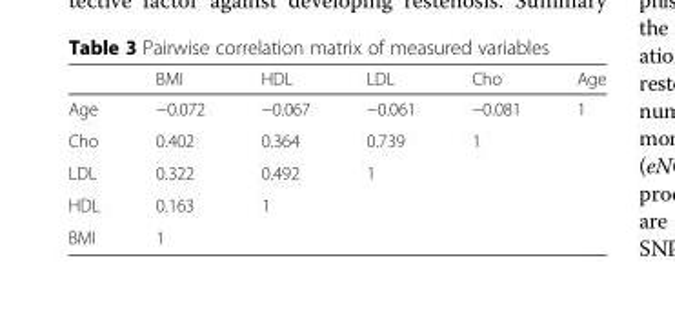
<table><thead><tr><td></td><td>BMI</td><td>HDL</td><td>LDL</td><td>Cho</td><td>Age</td></tr></thead><tbody><tr><td>Age</td><td>−0.072</td><td>−0.067</td><td>−0.061</td><td>−0.081</td><td>1</td></tr><tr><td>Cho</td><td>0.402</td><td>0.364</td><td>0.739</td><td>1</td><td></td></tr><tr><td>LDL</td><td>0.322</td><td>0.492</td><td>1</td><td></td><td></td></tr><tr><td>HDL</td><td>0.163</td><td>1</td><td></td><td></td><td></td></tr><tr><td>BMI</td><td>1</td><td></td><td></td><td></td><td></td></tr></tbody></table>